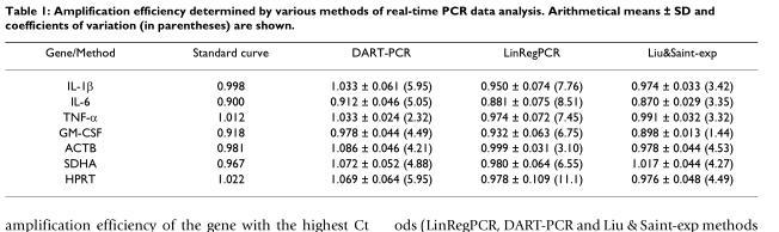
<table><thead><tr><td>Gene/Method</td><td>Standard curve</td><td>DART-PCR</td><td>LinRegPCR</td><td>Liu&amp;Saint-exp</td></tr></thead><tbody><tr><td>IL-1β</td><td>0.998</td><td>1.033 ± 0.061 (5.95)</td><td>0.950 ± 0.074 (7.76)</td><td>0.974 ± 0.033 (3.42)</td></tr><tr><td>IL-6</td><td>0.900</td><td>0.912 ± 0.046 (5.05)</td><td>0.881 ± 0.075 (8.51)</td><td>0.870 ± 0.029 (3.35)</td></tr><tr><td>TNF-α</td><td>1.012</td><td>1.033 ± 0.024 (2.32)</td><td>0.974 ± 0.072 (7.45)</td><td>0.991 ± 0.032 (3.32)</td></tr><tr><td>GM-CSF</td><td>0.918</td><td>0.978 ± 0.044 (4.49)</td><td>0.932 ± 0.063 (6.75)</td><td>0.898 ± 0.013 (1.44)</td></tr><tr><td>ACTB</td><td>0.981</td><td>1.086 ± 0.046 (4.21)</td><td>0.999 ± 0.031 (3.10)</td><td>0.978 ± 0.044 (4.53)</td></tr><tr><td>SDHA</td><td>0.967</td><td>1.072 ± 0.052 (4.88)</td><td>0.980 ± 0.064 (6.55)</td><td>1.017 ± 0.044 (4.27)</td></tr><tr><td>HPRT</td><td>1.022</td><td>1.069 ± 0.064 (5.95)</td><td>0.978 ± 0.109 (11.1)</td><td>0.976 ± 0.048 (4.49)</td></tr></tbody></table>